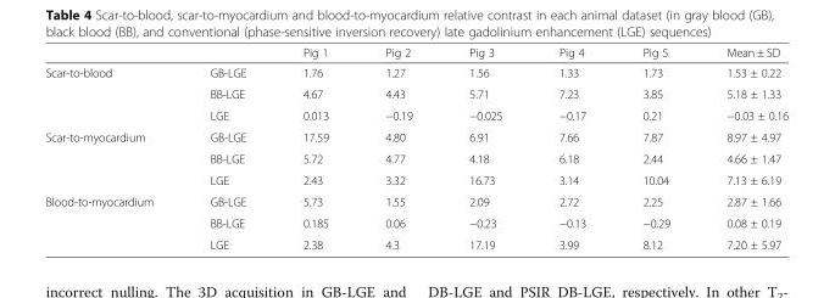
<table><thead><tr><td></td><td></td><td>Pig 1</td><td>Pig 2</td><td>Pig 3</td><td>Pig 4</td><td>Pig 5</td><td>Mean ± SD</td></tr></thead><tbody><tr><td rowspan="3">Scar-to-blood</td><td>GB-LGE</td><td>1.76</td><td>1.27</td><td>1.56</td><td>1.33</td><td>1.73</td><td>1.53 ± 0.22</td></tr><tr><td>BB-LGE</td><td>4.67</td><td>4.43</td><td>5.71</td><td>7.23</td><td>3.85</td><td>5.18 ± 1.33</td></tr><tr><td>LGE</td><td>0.013</td><td>−0.19</td><td>−0.025</td><td>−0.17</td><td>0.21</td><td>−0.03 ± 0.16</td></tr><tr><td rowspan="3">Scar-to-myocardium</td><td>GB-LGE</td><td>17.59</td><td>4.80</td><td>6.91</td><td>7.66</td><td>7.87</td><td>8.97 ± 4.97</td></tr><tr><td>BB-LGE</td><td>5.72</td><td>4.77</td><td>4.18</td><td>6.18</td><td>2.44</td><td>4.66 ± 1.47</td></tr><tr><td>LGE</td><td>2.43</td><td>3.32</td><td>16.73</td><td>3.14</td><td>10.04</td><td>7.13 ± 6.19</td></tr><tr><td rowspan="3">Blood-to-myocardium</td><td>GB-LGE</td><td>5.73</td><td>1.55</td><td>2.09</td><td>2.72</td><td>2.25</td><td>2.87 ± 1.66</td></tr><tr><td>BB-LGE</td><td>0.185</td><td>0.06</td><td>−0.23</td><td>−0.13</td><td>−0.29</td><td>0.08 ± 0.19</td></tr><tr><td>LGE</td><td>2.38</td><td>4.3</td><td>17.19</td><td>3.99</td><td>8.12</td><td>7.20 ± 5.97</td></tr></tbody></table>